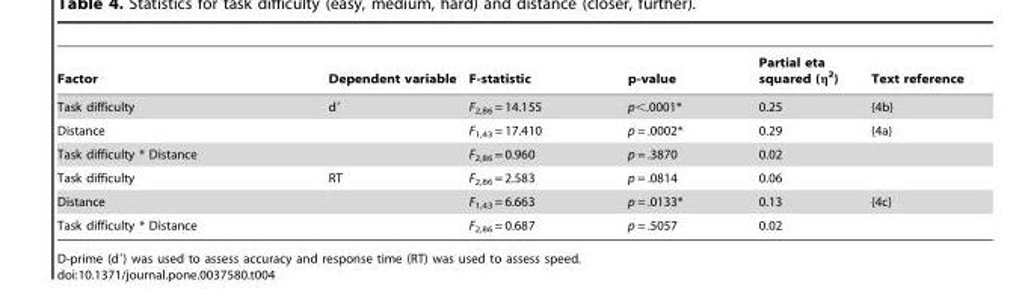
<table><thead><tr><td>Factor</td><td>Dependent variable</td><td>F-statistic</td><td>p-value</td><td>Partial eta squared (η<sup>2</sup>)</td><td>Text reference</td></tr></thead><tbody><tr><td>Task difficulty</td><td>d′</td><td>F<sub>2,86</sub> = 14.155</td><td>p&lt;.0001*</td><td>0.25</td><td>{4b}</td></tr><tr><td>Distance</td><td></td><td>F<sub>1,43</sub> = 17.410</td><td>p = .0002*</td><td>0.29</td><td>{4a}</td></tr><tr><td>Task difficulty * Distance</td><td></td><td>F<sub>2,86</sub> = 0.960</td><td>p = .3870</td><td>0.02</td><td></td></tr><tr><td>Task difficulty</td><td>RT</td><td>F<sub>2,86</sub> = 2.583</td><td>p = .0814</td><td>0.06</td><td></td></tr><tr><td>Distance</td><td></td><td>F<sub>1,43</sub> = 6.663</td><td>p = .0133*</td><td>0.13</td><td>{4c}</td></tr><tr><td>Task difficulty * Distance</td><td></td><td>F<sub>2,86</sub> = 0.687</td><td>p = .5057</td><td>0.02</td><td></td></tr></tbody></table>